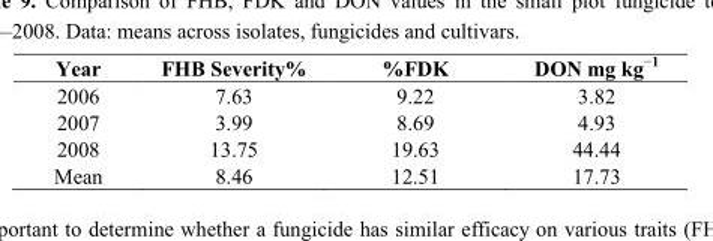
<table><thead><tr><td>Year</td><td>FHB Severity%</td><td>%FDK</td><td>DON mg kg<sup>−1</sup></td></tr></thead><tbody><tr><td>2006</td><td>7.63</td><td>9.22</td><td>3.82</td></tr><tr><td>2007</td><td>3.99</td><td>8.69</td><td>4.93</td></tr><tr><td>2008</td><td>13.75</td><td>19.63</td><td>44.44</td></tr><tr><td>Mean</td><td>8.46</td><td>12.51</td><td>17.73</td></tr></tbody></table>